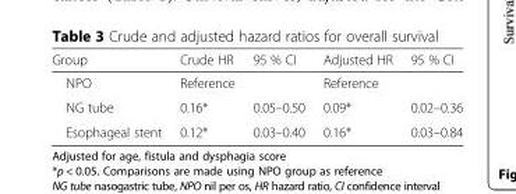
<table><thead><tr><td>Group</td><td>Crude HR</td><td>95 % CI</td><td>Adjusted HR</td><td>95 % CI</td></tr></thead><tbody><tr><td>NPO</td><td>Reference</td><td></td><td>Reference</td><td></td></tr><tr><td>NG tube</td><td>0.16*</td><td>0.05–0.50</td><td>0.09*</td><td>0.02–0.36</td></tr><tr><td>Esophageal stent</td><td>0.12*</td><td>0.03–0.40</td><td>0.16*</td><td>0.03–0.84</td></tr></tbody></table>